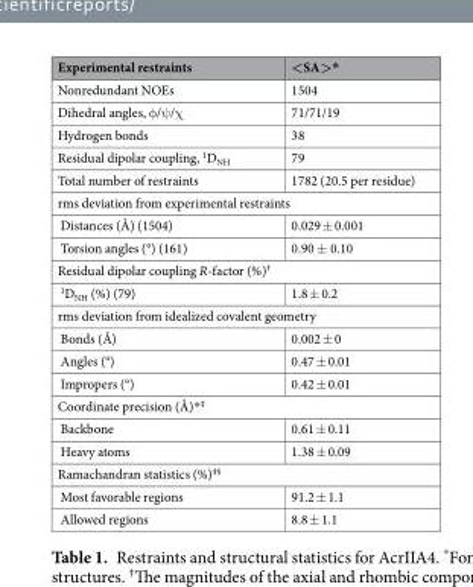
<table><thead><tr><td>Experimental restraints</td><td>&lt;SA&gt;*</td></tr></thead><tbody><tr><td>Nonredundant NOEs</td><td>1504</td></tr><tr><td>Dihedral angles, φ/ψ/χ</td><td>71/71/19</td></tr><tr><td>Hydrogen bonds</td><td>38</td></tr><tr><td>Residual dipolar coupling, <sup>1</sup>D<sub>NH</sub></td><td>79</td></tr><tr><td>Total number of restraints</td><td>1782 (20.5 per residue)</td></tr><tr><td colspan="2">rms deviation from experimental restraints</td></tr><tr><td>Distances (Å) (1504)</td><td>0.029 ± 0.001</td></tr><tr><td>Torsion angles (°) (161)</td><td>0.90 ± 0.10</td></tr><tr><td colspan="2">Residual dipolar coupling R-factor (%)<sup>†</sup></td></tr><tr><td><sup>1</sup>D<sub>NH</sub> (%) (79)</td><td>1.8 ± 0.2</td></tr><tr><td colspan="2">rms deviation from idealized covalent geometry</td></tr><tr><td>Bonds (Å)</td><td>0.002 ± 0</td></tr><tr><td>Angles (°)</td><td>0.47 ± 0.01</td></tr><tr><td>Impropers (°)</td><td>0.42 ± 0.01</td></tr><tr><td colspan="2">Coordinate precision (Å)*<sup>‡</sup></td></tr><tr><td>Backbone</td><td>0.61 ± 0.11</td></tr><tr><td>Heavy atoms</td><td>1.38 ± 0.09</td></tr><tr><td colspan="2">Ramachandran statistics (%)<sup>‡§</sup></td></tr><tr><td>Most favorable regions</td><td>91.2 ± 1.1</td></tr><tr><td>Allowed regions</td><td>8.8 ± 1.1</td></tr></tbody></table>